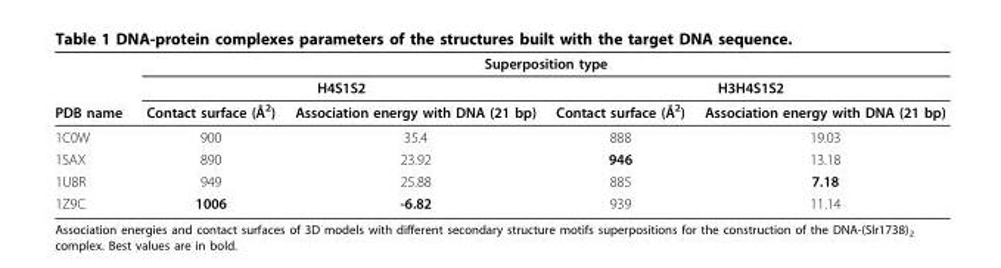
<table><thead><tr><td rowspan="3">PDB name</td><td colspan="4">Superposition type</td></tr><tr><td colspan="2">H4S1S2</td><td colspan="2">H3H4S1S2</td></tr><tr><td>Contact surface (Å<sup>2</sup>)</td><td>Association energy with DNA (21 bp)</td><td>Contact surface (Å<sup>2</sup>)</td><td>Association energy with DNA (21 bp)</td></tr></thead><tbody><tr><td>1C0W</td><td>900</td><td>35.4</td><td>888</td><td>19.03</td></tr><tr><td>1SAX</td><td>890</td><td>23.92</td><td>946</td><td>13.18</td></tr><tr><td>1U8R</td><td>949</td><td>25.88</td><td>885</td><td>7.18</td></tr><tr><td>1Z9C</td><td>1006</td><td>-6.82</td><td>939</td><td>11.14</td></tr></tbody></table>